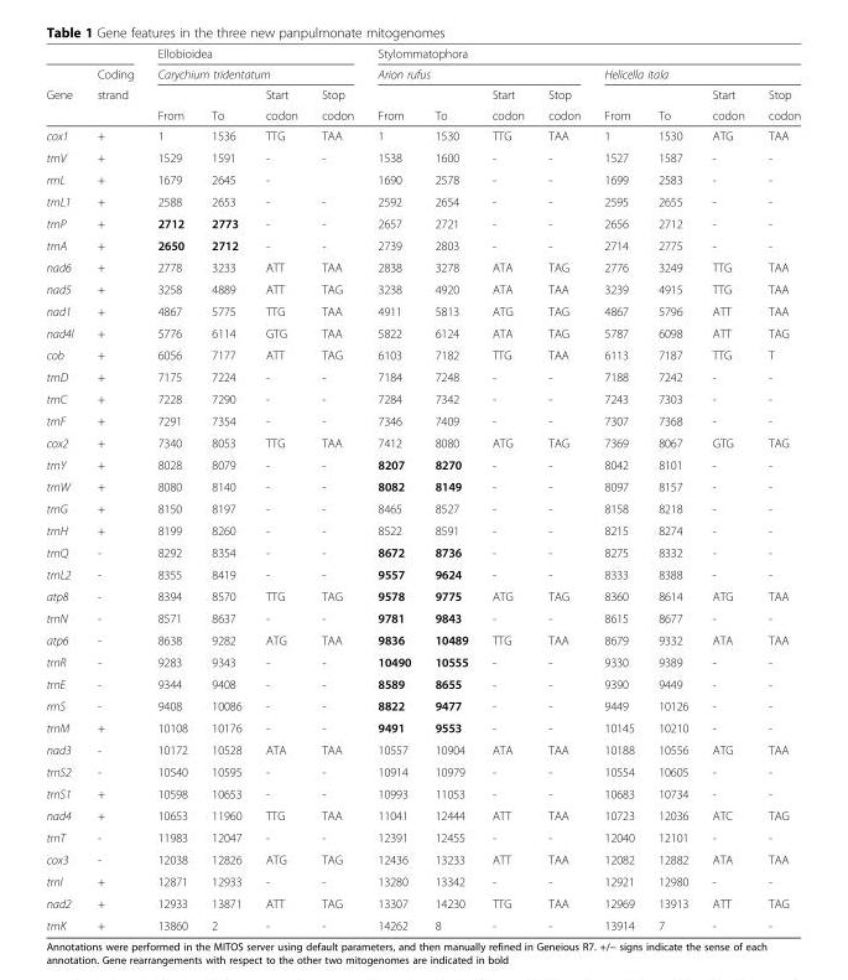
<table><thead><tr><td rowspan="4">Gene</td><td rowspan="4">Coding strand</td><td rowspan="2" colspan="4">Ellobioidea Carychium tridentatum</td><td colspan="8">Stylommatophora</td></tr><tr><td colspan="4">Arion rufus</td><td colspan="4">Helicella itala</td></tr><tr><td rowspan="2">From</td><td rowspan="2">To</td><td rowspan="2">Start codon</td><td rowspan="2">Stop codon</td><td rowspan="2">From</td><td rowspan="2">To</td><td rowspan="2">Start codon</td><td rowspan="2">Stop codon</td><td rowspan="2">From</td><td rowspan="2">To</td><td rowspan="2">Start codon</td><td rowspan="2">Stop codon</td></tr><tr></tr></thead><tbody><tr><td>cox1</td><td>+</td><td>1</td><td>1536</td><td>TTG</td><td>TAA</td><td>1</td><td>1530</td><td>TTG</td><td>TAA</td><td>1</td><td>1530</td><td>ATG</td><td>TAA</td></tr><tr><td>trnV</td><td>+</td><td>1529</td><td>1591</td><td>-</td><td>-</td><td>1538</td><td>1600</td><td>-</td><td>-</td><td>1527</td><td>1587</td><td>-</td><td>-</td></tr><tr><td>rrnL</td><td>+</td><td>1679</td><td>2645</td><td>-</td><td></td><td>1690</td><td>2578</td><td>-</td><td>-</td><td>1699</td><td>2583</td><td>-</td><td>-</td></tr><tr><td>trnL1</td><td>+</td><td>2588</td><td>2653</td><td>-</td><td>-</td><td>2592</td><td>2654</td><td>-</td><td>-</td><td>2595</td><td>2655</td><td>-</td><td>-</td></tr><tr><td>trnP</td><td>+</td><td>2712</td><td>2773</td><td>-</td><td>-</td><td>2657</td><td>2721</td><td>-</td><td>-</td><td>2656</td><td>2712</td><td>-</td><td>-</td></tr><tr><td>trnA</td><td>+</td><td>2650</td><td>2712</td><td>-</td><td>-</td><td>2739</td><td>2803</td><td>-</td><td>-</td><td>2714</td><td>2775</td><td>-</td><td>-</td></tr><tr><td>nad6</td><td>+</td><td>2778</td><td>3233</td><td>ATT</td><td>TAA</td><td>2838</td><td>3278</td><td>ATA</td><td>TAG</td><td>2776</td><td>3249</td><td>TTG</td><td>TAA</td></tr><tr><td>nad5</td><td>+</td><td>3258</td><td>4889</td><td>ATT</td><td>TAG</td><td>3238</td><td>4920</td><td>ATA</td><td>TAA</td><td>3239</td><td>4915</td><td>TTG</td><td>TAA</td></tr><tr><td>nad1</td><td>+</td><td>4867</td><td>5775</td><td>TTG</td><td>TAA</td><td>4911</td><td>5813</td><td>ATG</td><td>TAG</td><td>4867</td><td>5796</td><td>ATT</td><td>TAA</td></tr><tr><td>nad4l</td><td>+</td><td>5776</td><td>6114</td><td>GTG</td><td>TAA</td><td>5822</td><td>6124</td><td>ATA</td><td>TAG</td><td>5787</td><td>6098</td><td>ATT</td><td>TAG</td></tr><tr><td>cob</td><td>+</td><td>6056</td><td>7177</td><td>ATT</td><td>TAG</td><td>6103</td><td>7182</td><td>TTG</td><td>TAA</td><td>6113</td><td>7187</td><td>TTG</td><td>T</td></tr><tr><td>trnD</td><td>+</td><td>7175</td><td>7224</td><td>-</td><td>-</td><td>7184</td><td>7248</td><td>-</td><td>-</td><td>7188</td><td>7242</td><td>-</td><td>-</td></tr><tr><td>trnC</td><td>+</td><td>7228</td><td>7290</td><td>-</td><td>-</td><td>7284</td><td>7342</td><td>-</td><td>-</td><td>7243</td><td>7303</td><td>-</td><td>-</td></tr><tr><td>trnF</td><td>+</td><td>7291</td><td>7354</td><td>-</td><td>-</td><td>7346</td><td>7409</td><td>-</td><td>-</td><td>7307</td><td>7368</td><td>-</td><td>-</td></tr><tr><td>cox2</td><td>+</td><td>7340</td><td>8053</td><td>TTG</td><td>TAA</td><td>7412</td><td>8080</td><td>ATG</td><td>TAG</td><td>7369</td><td>8067</td><td>GTG</td><td>TAG</td></tr><tr><td>trnY</td><td>+</td><td>8028</td><td>8079</td><td>-</td><td>-</td><td>8207</td><td>8270</td><td>-</td><td>-</td><td>8042</td><td>8101</td><td>-</td><td>-</td></tr><tr><td>trnW</td><td>+</td><td>8080</td><td>8140</td><td>-</td><td>-</td><td>8082</td><td>8149</td><td>-</td><td>-</td><td>8097</td><td>8157</td><td>-</td><td>-</td></tr><tr><td>trnG</td><td>+</td><td>8150</td><td>8197</td><td>-</td><td>-</td><td>8465</td><td>8527</td><td>-</td><td>-</td><td>8158</td><td>8218</td><td>-</td><td>-</td></tr><tr><td>trnH</td><td>+</td><td>8199</td><td>8260</td><td>-</td><td>-</td><td>8522</td><td>8591</td><td>-</td><td>-</td><td>8215</td><td>8274</td><td>-</td><td>-</td></tr><tr><td>trnQ</td><td>-</td><td>8292</td><td>8354</td><td>-</td><td>-</td><td>8672</td><td>8736</td><td>-</td><td>-</td><td>8275</td><td>8332</td><td>-</td><td>-</td></tr><tr><td>trnL2</td><td>-</td><td>8355</td><td>8419</td><td>-</td><td>-</td><td>9557</td><td>9624</td><td>-</td><td>-</td><td>8333</td><td>8388</td><td>-</td><td>-</td></tr><tr><td>atp8</td><td>-</td><td>8394</td><td>8570</td><td>TTG</td><td>TAG</td><td>9578</td><td>9775</td><td>ATG</td><td>TAG</td><td>8360</td><td>8614</td><td>ATG</td><td>TAA</td></tr><tr><td>trnN</td><td>-</td><td>8571</td><td>8637</td><td>-</td><td>-</td><td>9781</td><td>9843</td><td>-</td><td>-</td><td>8615</td><td>8677</td><td>-</td><td>-</td></tr><tr><td>atp6</td><td>-</td><td>8638</td><td>9282</td><td>ATG</td><td>TAA</td><td>9836</td><td>10489</td><td>TTG</td><td>TAA</td><td>8679</td><td>9332</td><td>ATA</td><td>TAA</td></tr><tr><td>trnR</td><td>-</td><td>9283</td><td>9343</td><td>-</td><td>-</td><td>10490</td><td>10555</td><td>-</td><td>-</td><td>9330</td><td>9389</td><td>-</td><td>-</td></tr><tr><td>trnE</td><td>-</td><td>9344</td><td>9408</td><td>-</td><td>-</td><td>8589</td><td>8655</td><td>-</td><td>-</td><td>9390</td><td>9449</td><td>-</td><td>-</td></tr><tr><td>rrnS</td><td>-</td><td>9408</td><td>10086</td><td>-</td><td>-</td><td>8822</td><td>9477</td><td>-</td><td>-</td><td>9449</td><td>10126</td><td>-</td><td>-</td></tr><tr><td>trnM</td><td>+</td><td>10108</td><td>10176</td><td>-</td><td>-</td><td>9491</td><td>9553</td><td>-</td><td>-</td><td>10145</td><td>10210</td><td>-</td><td>-</td></tr><tr><td>nad3</td><td>-</td><td>10172</td><td>10528</td><td>ATA</td><td>TAA</td><td>10557</td><td>10904</td><td>ATA</td><td>TAA</td><td>10188</td><td>10556</td><td>ATG</td><td>TAA</td></tr><tr><td>trnS2</td><td>-</td><td>10540</td><td>10595</td><td>-</td><td>-</td><td>10914</td><td>10979</td><td>-</td><td>-</td><td>10554</td><td>10605</td><td>-</td><td>-</td></tr><tr><td>trnS1</td><td>+</td><td>10598</td><td>10653</td><td>-</td><td>-</td><td>10993</td><td>11053</td><td>-</td><td>-</td><td>10683</td><td>10734</td><td>-</td><td>-</td></tr><tr><td>nad4</td><td>+</td><td>10653</td><td>11960</td><td>TTG</td><td>TAA</td><td>11041</td><td>12444</td><td>ATT</td><td>TAA</td><td>10723</td><td>12036</td><td>ATC</td><td>TAG</td></tr><tr><td>trnT</td><td>-</td><td>11983</td><td>12047</td><td>-</td><td>-</td><td>12391</td><td>12455</td><td>-</td><td>-</td><td>12040</td><td>12101</td><td>-</td><td>-</td></tr><tr><td>cox3</td><td>-</td><td>12038</td><td>12826</td><td>ATG</td><td>TAG</td><td>12436</td><td>13233</td><td>ATT</td><td>TAA</td><td>12082</td><td>12882</td><td>ATA</td><td>TAA</td></tr><tr><td>trnI</td><td>+</td><td>12871</td><td>12933</td><td>-</td><td>-</td><td>13280</td><td>13342</td><td>-</td><td>-</td><td>12921</td><td>12980</td><td>-</td><td>-</td></tr><tr><td>nad2</td><td>+</td><td>12933</td><td>13871</td><td>ATT</td><td>TAG</td><td>13307</td><td>14230</td><td>TTG</td><td>TAA</td><td>12969</td><td>13913</td><td>ATT</td><td>TAG</td></tr><tr><td>trnK</td><td>+</td><td>13860</td><td>2</td><td>-</td><td>-</td><td>14262</td><td>8</td><td>-</td><td>-</td><td>13914</td><td>7</td><td>-</td><td>-</td></tr></tbody></table>